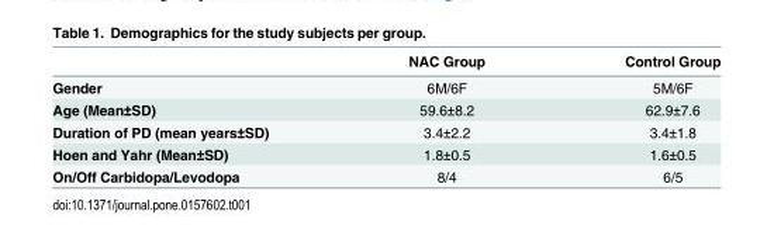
<table><thead><tr><td></td><td>NAC Group</td><td>Control Group</td></tr></thead><tbody><tr><td>Gender</td><td>6M/6F</td><td>5M/6F</td></tr><tr><td>Age (Mean±SD)</td><td>59.6±8.2</td><td>62.9±7.6</td></tr><tr><td>Duration of PD (mean years±SD)</td><td>3.4±2.2</td><td>3.4±1.8</td></tr><tr><td>Hoen and Yahr (Mean±SD)</td><td>1.8±0.5</td><td>1.6±0.5</td></tr><tr><td>On/Off Carbidopa/Levodopa</td><td>8/4</td><td>6/5</td></tr></tbody></table>